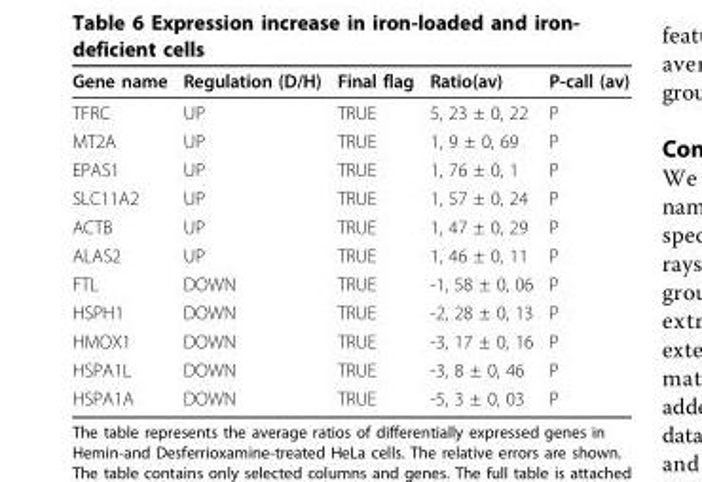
<table><thead><tr><td>Gene name</td><td>Regulation (D/H)</td><td>Final flag</td><td>Ratio(av)</td><td>P-call (av)</td></tr></thead><tbody><tr><td>TFRC</td><td>UP</td><td>TRUE</td><td>5, 23 ± 0, 22</td><td>P</td></tr><tr><td>MT2A</td><td>UP</td><td>TRUE</td><td>1, 9 ± 0, 69</td><td>P</td></tr><tr><td>EPAS1</td><td>UP</td><td>TRUE</td><td>1, 76 ± 0, 1</td><td>P</td></tr><tr><td>SLC11A2</td><td>UP</td><td>TRUE</td><td>1, 57 ± 0, 24</td><td>P</td></tr><tr><td>ACTB</td><td>UP</td><td>TRUE</td><td>1, 47 ± 0, 29</td><td>P</td></tr><tr><td>ALAS2</td><td>UP</td><td>TRUE</td><td>1, 46 ± 0, 11</td><td>P</td></tr><tr><td>FTL</td><td>DOWN</td><td>TRUE</td><td>-1, 58 ± 0, 06</td><td>P</td></tr><tr><td>HSPH1</td><td>DOWN</td><td>TRUE</td><td>-2, 28 ± 0, 13</td><td>P</td></tr><tr><td>HMOX1</td><td>DOWN</td><td>TRUE</td><td>-3, 17 ± 0, 16</td><td>P</td></tr><tr><td>HSPA1L</td><td>DOWN</td><td>TRUE</td><td>-3, 8 ± 0, 46</td><td>P</td></tr><tr><td>HSPA1A</td><td>DOWN</td><td>TRUE</td><td>-5, 3 ± 0, 03</td><td>P</td></tr></tbody></table>